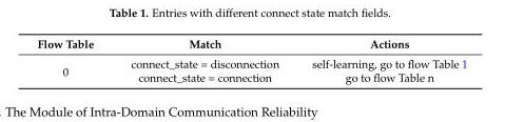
<table><thead><tr><td>Flow Table</td><td>Match</td><td>Actions</td></tr></thead><tbody><tr><td rowspan="2">0</td><td>connect_state = disconnection</td><td>self-learning, go to flow Table 1</td></tr><tr><td>connect_state = connection</td><td>go to flow Table n</td></tr></tbody></table>